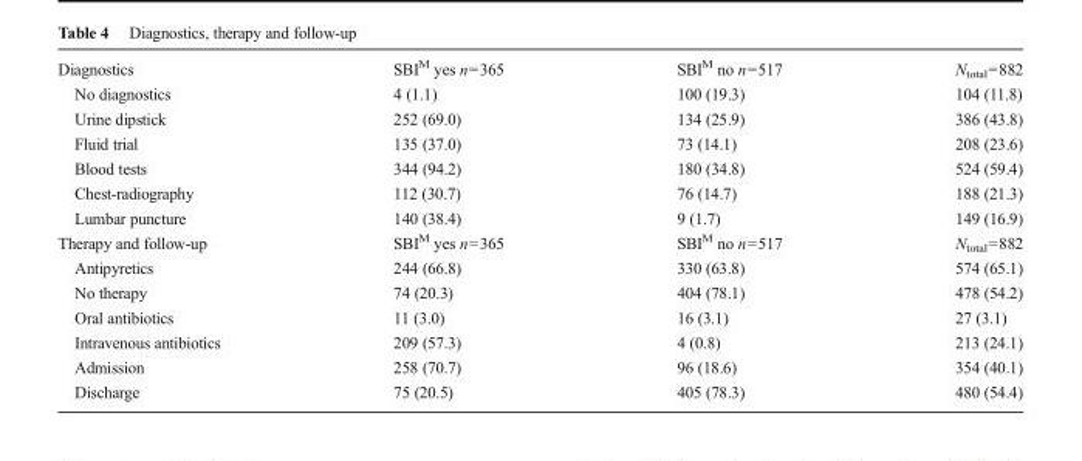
<table><tbody><tr><td>Diagnostics</td><td>SBI<sup>M</sup> yes n=365</td><td>SBI<sup>M</sup> no n=517</td><td>N<sub>total</sub>=882</td></tr><tr><td>No diagnostics</td><td>4 (1.1)</td><td>100 (19.3)</td><td>104 (11.8)</td></tr><tr><td>Urine dipstick</td><td>252 (69.0)</td><td>134 (25.9)</td><td>386 (43.8)</td></tr><tr><td>Fluid trial</td><td>135 (37.0)</td><td>73 (14.1)</td><td>208 (23.6)</td></tr><tr><td>Blood tests</td><td>344 (94.2)</td><td>180 (34.8)</td><td>524 (59.4)</td></tr><tr><td>Chest-radiography</td><td>112 (30.7)</td><td>76 (14.7)</td><td>188 (21.3)</td></tr><tr><td>Lumbar puncture</td><td>140 (38.4)</td><td>9 (1.7)</td><td>149 (16.9)</td></tr><tr><td>Therapy and follow-up</td><td>SBI<sup>M</sup> yes n=365</td><td>SBI<sup>M</sup> no n=517</td><td>N<sub>total</sub>=882</td></tr><tr><td>Antipyretics</td><td>244 (66.8)</td><td>330 (63.8)</td><td>574 (65.1)</td></tr><tr><td>No therapy</td><td>74 (20.3)</td><td>404 (78.1)</td><td>478 (54.2)</td></tr><tr><td>Oral antibiotics</td><td>11 (3.0)</td><td>16 (3.1)</td><td>27 (3.1)</td></tr><tr><td>Intravenous antibiotics</td><td>209 (57.3)</td><td>4 (0.8)</td><td>213 (24.1)</td></tr><tr><td>Admission</td><td>258 (70.7)</td><td>96 (18.6)</td><td>354 (40.1)</td></tr><tr><td>Discharge</td><td>75 (20.5)</td><td>405 (78.3)</td><td>480 (54.4)</td></tr></tbody></table>